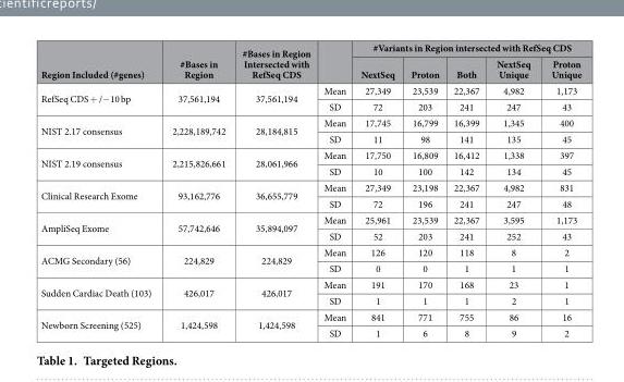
<table><thead><tr><td rowspan="2">Region Included (#genes)</td><td rowspan="2">#Bases in Region</td><td rowspan="2">#Bases in Region Intersected with RefSeq CDS</td><td rowspan="2"></td><td colspan="5">#Variants in Region intersected with RefSeq CDS</td></tr><tr><td>NextSeq</td><td>Proton</td><td>Both</td><td>NextSeq Unique</td><td>Proton Unique</td></tr></thead><tbody><tr><td rowspan="2">RefSeq CDS + /− 10 bp</td><td rowspan="2">37,561,194</td><td rowspan="2">37,561,194</td><td>Mean</td><td>27,349</td><td>23,539</td><td>22,367</td><td>4,982</td><td>1,173</td></tr><tr><td>SD</td><td>72</td><td>203</td><td>241</td><td>247</td><td>43</td></tr><tr><td rowspan="2">NIST 2.17 consensus</td><td rowspan="2">2,228,189,742</td><td rowspan="2">28,184,815</td><td>Mean</td><td>17,745</td><td>16,799</td><td>16,399</td><td>1,345</td><td>400</td></tr><tr><td>SD</td><td>11</td><td>98</td><td>141</td><td>135</td><td>45</td></tr><tr><td rowspan="2">NIST 2.19 consensus</td><td rowspan="2">2,215,826,661</td><td rowspan="2">28,061,966</td><td>Mean</td><td>17,750</td><td>16,809</td><td>16,412</td><td>1,338</td><td>397</td></tr><tr><td>SD</td><td>10</td><td>100</td><td>142</td><td>134</td><td>45</td></tr><tr><td rowspan="2">Clinical Research Exome</td><td rowspan="2">93,162,776</td><td rowspan="2">36,655,779</td><td>Mean</td><td>27,349</td><td>23,198</td><td>22,367</td><td>4,982</td><td>831</td></tr><tr><td>SD</td><td>72</td><td>196</td><td>241</td><td>247</td><td>48</td></tr><tr><td rowspan="2">AmpliSeq Exome</td><td rowspan="2">57,742,646</td><td rowspan="2">35,894,097</td><td>Mean</td><td>25,961</td><td>23,539</td><td>22,367</td><td>3,595</td><td>1,173</td></tr><tr><td>SD</td><td>52</td><td>203</td><td>241</td><td>252</td><td>43</td></tr><tr><td rowspan="2">ACMG Secondary (56)</td><td rowspan="2">224,829</td><td rowspan="2">224,829</td><td>Mean</td><td>126</td><td>120</td><td>118</td><td>8</td><td>2</td></tr><tr><td>SD</td><td>0</td><td>0</td><td>1</td><td>1</td><td>1</td></tr><tr><td rowspan="2">Sudden Cardiac Death (103)</td><td rowspan="2">426,017</td><td rowspan="2">426,017</td><td>Mean</td><td>191</td><td>170</td><td>168</td><td>23</td><td>1</td></tr><tr><td>SD</td><td>1</td><td>1</td><td>1</td><td>2</td><td>1</td></tr><tr><td rowspan="2">Newborn Screening (525)</td><td rowspan="2">1,424,598</td><td rowspan="2">1,424,598</td><td>Mean</td><td>841</td><td>771</td><td>755</td><td>86</td><td>16</td></tr><tr><td>SD</td><td>1</td><td>6</td><td>8</td><td>9</td><td>2</td></tr></tbody></table>